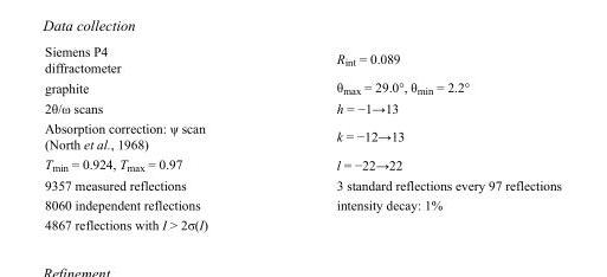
<table><tbody><tr><td>Siemens P4 diffractometer</td><td>R<sub>int</sub> = 0.089</td></tr><tr><td>graphite</td><td>θ<sub>max</sub> = 29.0°, θ<sub>min</sub> = 2.2°</td></tr><tr><td>2θ/ω scans</td><td>h = −1→13</td></tr><tr><td>Absorption correction: ψ scan (North et al., 1968)</td><td>k = −12→13</td></tr><tr><td>T<sub>min</sub> = 0.924, T<sub>max</sub> = 0.97</td><td>l = −22→22</td></tr><tr><td>9357 measured reflections</td><td>3 standard reflections every 97 reflections</td></tr><tr><td>8060 independent reflections</td><td>intensity decay: 1%</td></tr><tr><td>4867 reflections with I &gt; 2σ(I)</td><td></td></tr></tbody></table>